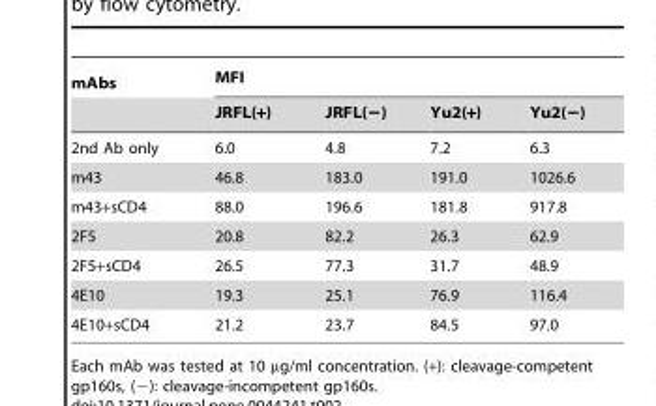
<table><thead><tr><td rowspan="2">mAbs</td><td colspan="4">MFI</td></tr><tr><td>JRFL(+)</td><td>JRFL(−)</td><td>Yu2(+)</td><td>Yu2(−)</td></tr></thead><tbody><tr><td>2nd Ab only</td><td>6.0</td><td>4.8</td><td>7.2</td><td>6.3</td></tr><tr><td>m43</td><td>46.8</td><td>183.0</td><td>191.0</td><td>1026.6</td></tr><tr><td>m43+sCD4</td><td>88.0</td><td>196.6</td><td>181.8</td><td>917.8</td></tr><tr><td>2F5</td><td>20.8</td><td>82.2</td><td>26.3</td><td>62.9</td></tr><tr><td>2F5+sCD4</td><td>26.5</td><td>77.3</td><td>31.7</td><td>48.9</td></tr><tr><td>4E10</td><td>19.3</td><td>25.1</td><td>76.9</td><td>116.4</td></tr><tr><td>4E10+sCD4</td><td>21.2</td><td>23.7</td><td>84.5</td><td>97.0</td></tr></tbody></table>